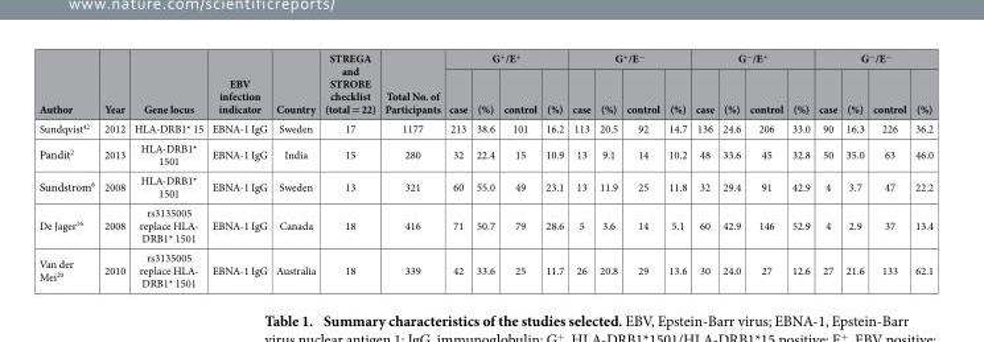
<table><thead><tr><td rowspan="2">Author</td><td rowspan="2">Year</td><td rowspan="2">Gene locus</td><td rowspan="2">EBV infection indicator</td><td rowspan="2">Country</td><td rowspan="2">STREGA and STROBE checklist (total = 22)</td><td rowspan="2">Total No. of Participants</td><td colspan="4">G<sup>+</sup>/E<sup>+</sup></td><td colspan="4">G<sup>+</sup>/E<sup>−</sup></td><td colspan="4">G<sup>−</sup>/E<sup>+</sup></td><td colspan="4">G<sup>−</sup>/E<sup>−</sup></td></tr><tr><td>case</td><td>(%)</td><td>control</td><td>(%)</td><td>case</td><td>(%)</td><td>control</td><td>(%)</td><td>case</td><td>(%)</td><td>control</td><td>(%)</td><td>case</td><td>(%)</td><td>control</td><td>(%)</td></tr></thead><tbody><tr><td>Sundqvist<sup>42</sup></td><td>2012</td><td>HLA-DRB1* 15</td><td>EBNA-1 IgG</td><td>Sweden</td><td>17</td><td>1177</td><td>213</td><td>38.6</td><td>101</td><td>16.2</td><td>113</td><td>20.5</td><td>92</td><td>14.7</td><td>136</td><td>24.6</td><td>206</td><td>33.0</td><td>90</td><td>16.3</td><td>226</td><td>36.2</td></tr><tr><td>Pandit<sup>2</sup></td><td>2013</td><td>HLA-DRB1* 1501</td><td>EBNA-1 IgG</td><td>India</td><td>15</td><td>280</td><td>32</td><td>22.4</td><td>15</td><td>10.9</td><td>13</td><td>9.1</td><td>14</td><td>10.2</td><td>48</td><td>33.6</td><td>45</td><td>32.8</td><td>50</td><td>35.0</td><td>63</td><td>46.0</td></tr><tr><td>Sundstrom<sup>6</sup></td><td>2008</td><td>HLA-DRB1* 1501</td><td>EBNA-1 IgG</td><td>Sweden</td><td>13</td><td>321</td><td>60</td><td>55.0</td><td>49</td><td>23.1</td><td>13</td><td>11.9</td><td>25</td><td>11.8</td><td>32</td><td>29.4</td><td>91</td><td>42.9</td><td>4</td><td>3.7</td><td>47</td><td>22.2</td></tr><tr><td>De Jager<sup>16</sup></td><td>2008</td><td>rs3135005 replace HLA- DRB1* 1501</td><td>EBNA-1 IgG</td><td>Canada</td><td>18</td><td>416</td><td>71</td><td>50.7</td><td>79</td><td>28.6</td><td>5</td><td>3.6</td><td>14</td><td>5.1</td><td>60</td><td>42.9</td><td>146</td><td>52.9</td><td>4</td><td>2.9</td><td>37</td><td>13.4</td></tr><tr><td>Van der Mei<sup>20</sup></td><td>2010</td><td>rs3135005 replace HLA- DRB1* 1501</td><td>EBNA-1 IgG</td><td>Australia</td><td>18</td><td>339</td><td>42</td><td>33.6</td><td>25</td><td>11.7</td><td>26</td><td>20.8</td><td>29</td><td>13.6</td><td>30</td><td>24.0</td><td>27</td><td>12.6</td><td>27</td><td>21.6</td><td>133</td><td>62.1</td></tr></tbody></table>